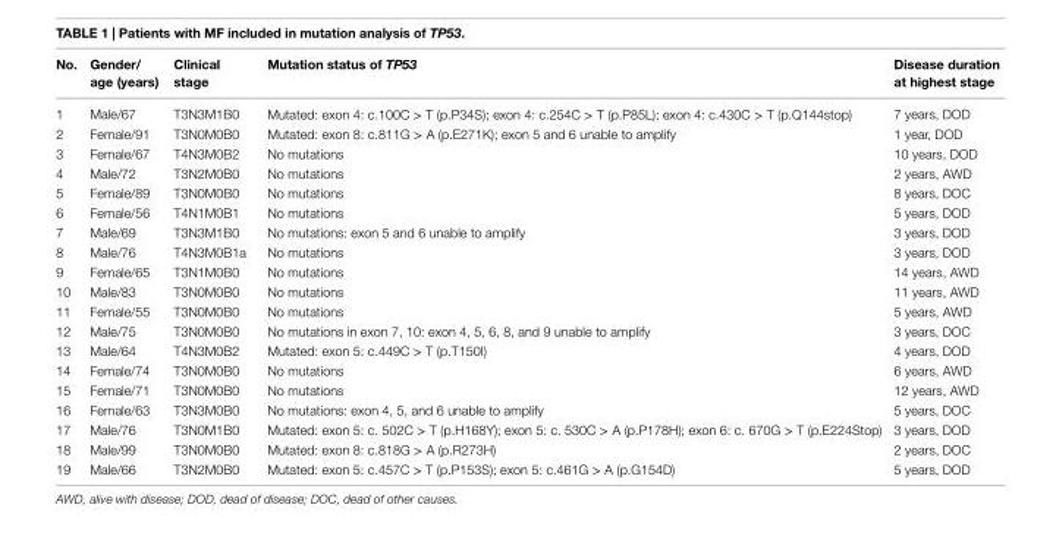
<table><thead><tr><td>no.</td><td>gender/ age (years)</td><td>clinical stage</td><td>Mutation status of TP53</td><td>Disease duration at highest stage</td></tr></thead><tbody><tr><td>1</td><td>Male/67</td><td>T3N3M1B0</td><td>Mutated: exon 4: c.100C &gt; T (p.P34S); exon 4: c.254C &gt; T (p.P85L); exon 4: c.430C &gt; T (p.Q144stop)</td><td>7 years, DOD</td></tr><tr><td>2</td><td>Female/91</td><td>T3N0M0B0</td><td>Mutated: exon 8: c.811G &gt; A (p.E271K); exon 5 and 6 unable to amplify</td><td>1 year, DOD</td></tr><tr><td>3</td><td>Female/67</td><td>T4N3M0B2</td><td>No mutations</td><td>10 years, DOD</td></tr><tr><td>4</td><td>Male/72</td><td>T3N2M0B0</td><td>No mutations</td><td>2 years, AWD</td></tr><tr><td>5</td><td>Female/89</td><td>T3N0M0B0</td><td>No mutations</td><td>8 years, DOC</td></tr><tr><td>6</td><td>Female/56</td><td>T4N1M0B1</td><td>No mutations</td><td>5 years, DOD</td></tr><tr><td>7</td><td>Male/69</td><td>T3N3M1B0</td><td>No mutations: exon 5 and 6 unable to amplify</td><td>3 years, DOD</td></tr><tr><td>8</td><td>Male/76</td><td>T4N3M0B1a</td><td>No mutations</td><td>3 years, DOD</td></tr><tr><td>9</td><td>Female/65</td><td>T3N1M0B0</td><td>No mutations</td><td>14 years, AWD</td></tr><tr><td>10</td><td>Male/83</td><td>T3N0M0B0</td><td>No mutations</td><td>11 years, AWD</td></tr><tr><td>11</td><td>Female/55</td><td>T3N0M0B0</td><td>No mutations</td><td>5 years, AWD</td></tr><tr><td>12</td><td>Male/75</td><td>T3N0M0B0</td><td>No mutations in exon 7, 10: exon 4, 5, 6, 8, and 9 unable to amplify</td><td>3 years, DOC</td></tr><tr><td>13</td><td>Male/64</td><td>T4N3M0B2</td><td>Mutated: exon 5: c.449C &gt; T (p.T150I)</td><td>4 years, DOD</td></tr><tr><td>14</td><td>Female/74</td><td>T3N0M0B0</td><td>No mutations</td><td>6 years, AWD</td></tr><tr><td>15</td><td>Female/71</td><td>T3N0M0B0</td><td>No mutations</td><td>12 years, AWD</td></tr><tr><td>16</td><td>Female/63</td><td>T3N3M0B0</td><td>No mutations: exon 4, 5, and 6 unable to amplify</td><td>5 years, DOC</td></tr><tr><td>17</td><td>Male/76</td><td>T3N0M1B0</td><td>Mutated: exon 5: c. 502C &gt; T (p.H168Y); exon 5: c. 530C &gt; A (p.P178H); exon 6: c. 670G &gt; T (p.E224Stop)</td><td>3 years, DOD</td></tr><tr><td>18</td><td>Male/99</td><td>T3N0M0B0</td><td>Mutated: exon 8: c.818G &gt; A (p.R273H)</td><td>2 years, DOC</td></tr><tr><td>19</td><td>Male/66</td><td>T3N2M0B0</td><td>Mutated: exon 5: c.457C &gt; T (p.P153S); exon 5: c.461G &gt; A (p.G154D)</td><td>5 years, DOD</td></tr></tbody></table>